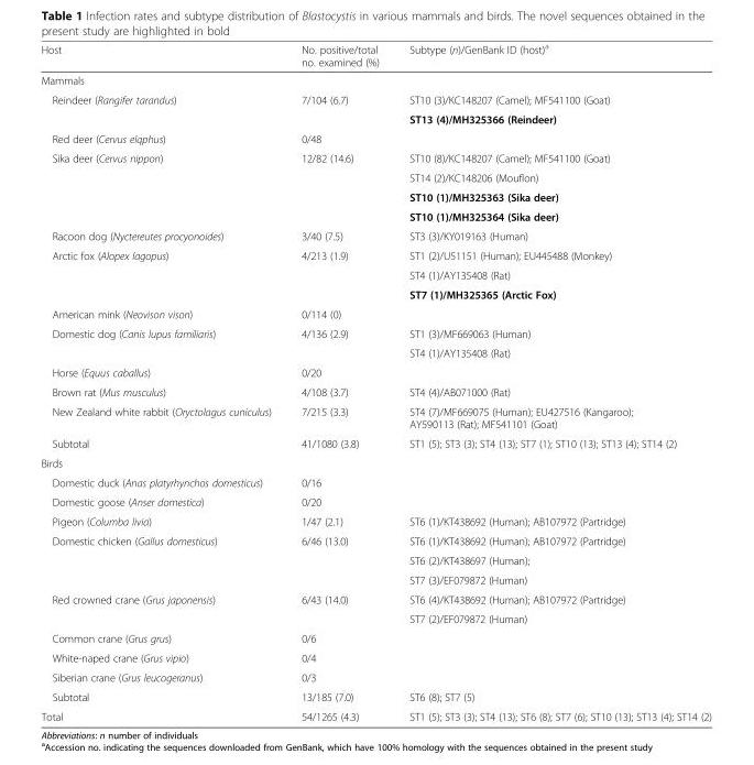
<table><thead><tr><td>Host</td><td>No. positive/total no. examined (%)</td><td>Subtype (n)/GenBank ID (host)<sup>a</sup></td></tr></thead><tbody><tr><td colspan="3">Mammals</td></tr><tr><td rowspan="2">Reindeer (Rangifer tarandus)</td><td rowspan="2">7/104 (6.7)</td><td>ST10 (3)/KC148207 (Camel); MF541100 (Goat)</td></tr><tr><td>ST13 (4)/MH325366 (Reindeer)</td></tr><tr><td>Red deer (Cervus elqphus)</td><td>0/48</td><td></td></tr><tr><td rowspan="4">Sika deer (Cervus nippon)</td><td rowspan="4">12/82 (14.6)</td><td>ST10 (8)/KC148207 (Camel); MF541100 (Goat)</td></tr><tr><td>ST14 (2)/KC148206 (Mouflon)</td></tr><tr><td>ST10 (1)/MH325363 (Sika deer)</td></tr><tr><td>ST10 (1)/MH325364 (Sika deer)</td></tr><tr><td>Racoon dog (Nyctereutes procyonoides)</td><td>3/40 (7.5)</td><td>ST3 (3)/KY019163 (Human)</td></tr><tr><td rowspan="3">Arctic fox (Alopex lagopus)</td><td rowspan="3">4/213 (1.9)</td><td>ST1 (2)/U51151 (Human); EU445488 (Monkey)</td></tr><tr><td>ST4 (1)/AY135408 (Rat)</td></tr><tr><td>ST7 (1)/MH325365 (Arctic Fox)</td></tr><tr><td>American mink (Neovison vison)</td><td>0/114 (0)</td><td></td></tr><tr><td rowspan="2">Domestic dog (Canis lupus familiaris)</td><td rowspan="2">4/136 (2.9)</td><td>ST1 (3)/MF669063 (Human)</td></tr><tr><td>ST4 (1)/AY135408 (Rat)</td></tr><tr><td>Horse (Equus caballus)</td><td>0/20</td><td></td></tr><tr><td>Brown rat (Mus musculus)</td><td>4/108 (3.7)</td><td>ST4 (4)/AB071000 (Rat)</td></tr><tr><td>New Zealand white rabbit (Oryctolagus cuniculus)</td><td>7/215 (3.3)</td><td>ST4 (7)/MF669075 (Human); EU427516 (Kangaroo); AY590113 (Rat); MF541101 (Goat)</td></tr><tr><td>Subtotal</td><td>41/1080 (3.8)</td><td>ST1 (5); ST3 (3); ST4 (13); ST7 (1); ST10 (13); ST13 (4); ST14 (2)</td></tr><tr><td colspan="3">Birds</td></tr><tr><td>Domestic duck (Anas platyrhynchos domesticus)</td><td>0/16</td><td></td></tr><tr><td>Domestic goose (Anser domestica)</td><td>0/20</td><td></td></tr><tr><td>Pigeon (Columba livia)</td><td>1/47 (2.1)</td><td>ST6 (1)/KT438692 (Human); AB107972 (Partridge)</td></tr><tr><td rowspan="3">Domestic chicken (Gallus domesticus)</td><td rowspan="3">6/46 (13.0)</td><td>ST6 (1)/KT438692 (Human); AB107972 (Partridge)</td></tr><tr><td>ST6 (2)/KT438697 (Human);</td></tr><tr><td>ST7 (3)/EF079872 (Human)</td></tr><tr><td rowspan="2">Red crowned crane (Grus japonensis)</td><td rowspan="2">6/43 (14.0)</td><td>ST6 (4)/KT438692 (Human); AB107972 (Partridge)</td></tr><tr><td>ST7 (2)/EF079872 (Human)</td></tr><tr><td>Common crane (Grus grus)</td><td>0/6</td><td></td></tr><tr><td>White-naped crane (Grus vipio)</td><td>0/4</td><td></td></tr><tr><td>Siberian crane (Grus leucogeranus)</td><td>0/3</td><td></td></tr><tr><td>Subtotal</td><td>13/185 (7.0)</td><td>ST6 (8); ST7 (5)</td></tr><tr><td>Total</td><td>54/1265 (4.3)</td><td>ST1 (5); ST3 (3); ST4 (13); ST6 (8); ST7 (6); ST10 (13); ST13 (4); ST14 (2)</td></tr></tbody></table>